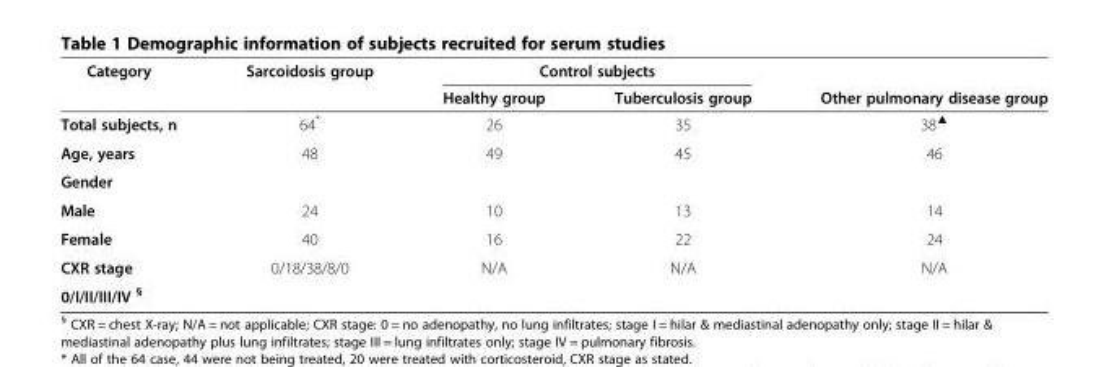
<table><thead><tr><td rowspan="2">Category</td><td rowspan="2">Sarcoidosis group</td><td colspan="2">Control subjects</td><td rowspan="2">Other pulmonary disease group</td></tr><tr><td>Healthy group</td><td>Tuberculosis group</td></tr></thead><tbody><tr><td>Total subjects, n</td><td>64*</td><td>26</td><td>35</td><td>38<sup>▲</sup></td></tr><tr><td>Age, years</td><td>48</td><td>49</td><td>45</td><td>46</td></tr><tr><td colspan="5">Gender</td></tr><tr><td>Male</td><td>24</td><td>10</td><td>13</td><td>14</td></tr><tr><td>Female</td><td>40</td><td>16</td><td>22</td><td>24</td></tr><tr><td>CXR stage</td><td>0/18/38/8/0</td><td>N/A</td><td>N/A</td><td>N/A</td></tr><tr><td>0/I/II/III/IV <sup>§</sup></td><td></td><td></td><td></td><td></td></tr></tbody></table>